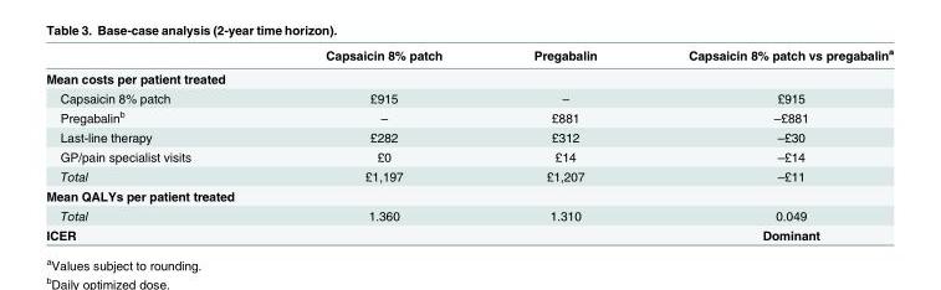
<table><thead><tr><td></td><td>Capsaicin 8% patch</td><td>Pregabalin</td><td>Capsaicin 8% patch vs pregabalin<sup>a</sup></td></tr></thead><tbody><tr><td colspan="4">Mean costs per patient treated</td></tr><tr><td>Capsaicin 8% patch</td><td>£915</td><td>–</td><td>£915</td></tr><tr><td>Pregabalin<sup>b</sup></td><td>–</td><td>£881</td><td>–£881</td></tr><tr><td>Last-line therapy</td><td>£282</td><td>£312</td><td>–£30</td></tr><tr><td>GP/pain specialist visits</td><td>£0</td><td>£14</td><td>–£14</td></tr><tr><td>Total</td><td>£1,197</td><td>£1,207</td><td>–£11</td></tr><tr><td colspan="4">Mean QALYs per patient treated</td></tr><tr><td>Total</td><td>1.360</td><td>1.310</td><td>0.049</td></tr><tr><td>ICER</td><td></td><td></td><td>Dominant</td></tr></tbody></table>